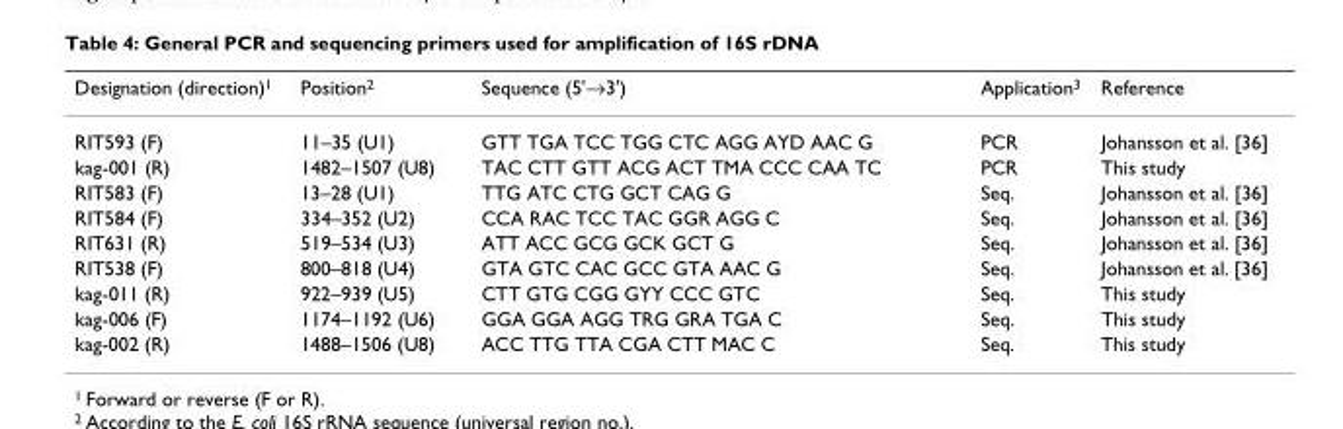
<table><thead><tr><td>Designation (direction)1</td><td>Position2</td><td>Sequence (5&#x27;→3&#x27;)</td><td>Application3</td><td>Reference</td></tr></thead><tbody><tr><td>RIT593 (F)</td><td>11–35 (U1)</td><td>GTT TGA TCC TGG CTC AGG AYD AAC G</td><td>PCR</td><td>Johansson et al. [36]</td></tr><tr><td>kag-001 (R)</td><td>1482–1507 (U8)</td><td>TAC CTT GTT ACG ACT TMA CCC CAA TC</td><td>PCR</td><td>This study</td></tr><tr><td>RIT583 (F)</td><td>13–28 (U1)</td><td>TTG ATC CTG GCT CAG G</td><td>Seq.</td><td>Johansson et al. [36]</td></tr><tr><td>RIT584 (F)</td><td>334–352 (U2)</td><td>CCA RAC TCC TAC GGR AGG C</td><td>Seq.</td><td>Johansson et al. [36]</td></tr><tr><td>RIT631 (R)</td><td>519–534 (U3)</td><td>ATT ACC GCG GCK GCT G</td><td>Seq.</td><td>Johansson et al. [36]</td></tr><tr><td>RIT538 (F)</td><td>800–818 (U4)</td><td>GTA GTC CAC GCC GTA AAC G</td><td>Seq.</td><td>Johansson et al. [36]</td></tr><tr><td>kag-011 (R)</td><td>922–939 (U5)</td><td>CTT GTG CGG GYY CCC GTC</td><td>Seq.</td><td>This study</td></tr><tr><td>kag-006 (F)</td><td>1174–1192 (U6)</td><td>GGA GGA AGG TRG GRA TGA C</td><td>Seq.</td><td>This study</td></tr><tr><td>kag-002 (R)</td><td>1488–1506 (U8)</td><td>ACC TTG TTA CGA CTT MAC C</td><td>Seq.</td><td>This study</td></tr></tbody></table>